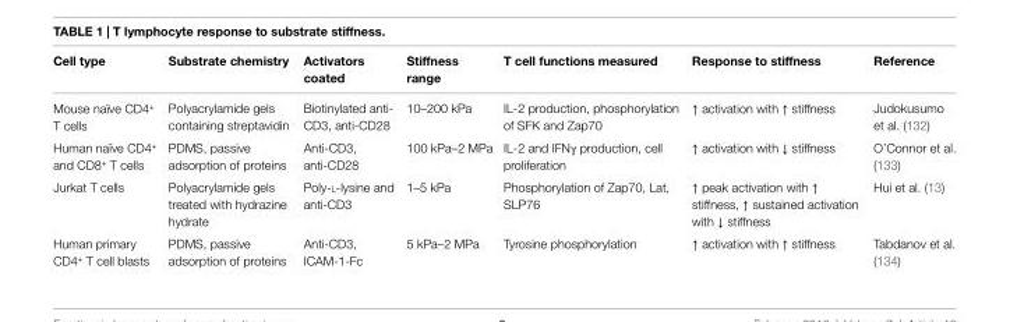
<table><thead><tr><td>Cell type</td><td>Substrate chemistry</td><td>Activators coated</td><td>Stiffness range</td><td>T cell functions measured</td><td>Response to stiffness</td><td>Reference</td></tr></thead><tbody><tr><td>Mouse naïve CD4<sup>+</sup> T cells</td><td>Polyacrylamide gels containing streptavidin</td><td>Biotinylated anti- CD3, anti-CD28</td><td>10–200 kPa</td><td>IL-2 production, phosphorylation of SFK and Zap70</td><td>↑ activation with ↑ stiffness</td><td>Judokusumo et al. (132)</td></tr><tr><td>Human naïve CD4<sup>+</sup> and CD8<sup>+</sup> T cells</td><td>PDMS, passive adsorption of proteins</td><td>Anti-CD3, anti-CD28</td><td>100 kPa–2 MPa</td><td>IL-2 and IFNγ production, cell proliferation</td><td>↑ activation with ↓ stiffness</td><td>O’Connor et al. (133)</td></tr><tr><td>Jurkat T cells</td><td>Polyacrylamide gels treated with hydrazine hydrate</td><td>Poly-l-lysine and anti-CD3</td><td>1–5 kPa</td><td>Phosphorylation of Zap70, Lat, SLP76</td><td>↑ peak activation with ↑ stiffness, ↑ sustained activation with ↓ stiffness</td><td>Hui et al. (13)</td></tr><tr><td>Human primary CD4<sup>+</sup> T cell blasts</td><td>PDMS, passive adsorption of proteins</td><td>Anti-CD3, ICAM-1-Fc</td><td>5 kPa–2 MPa</td><td>Tyrosine phosphorylation</td><td>↑ activation with ↑ stiffness</td><td>Tabdanov et al. (134)</td></tr></tbody></table>